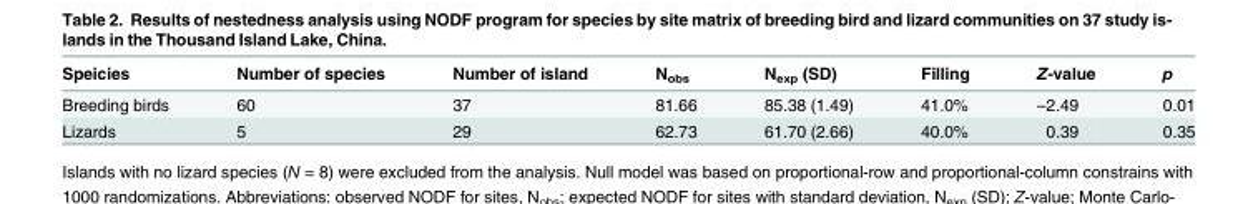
<table><thead><tr><td>Speicies</td><td>Number of species</td><td>Number of island</td><td>N<sub>obs</sub></td><td>N<sub>exp</sub> (SD)</td><td>Filling</td><td>Z-value</td><td>p</td></tr></thead><tbody><tr><td>Breeding birds</td><td>60</td><td>37</td><td>81.66</td><td>85.38 (1.49)</td><td>41.0%</td><td>–2.49</td><td>0.01</td></tr><tr><td>Lizards</td><td>5</td><td>29</td><td>62.73</td><td>61.70 (2.66)</td><td>40.0%</td><td>0.39</td><td>0.35</td></tr></tbody></table>